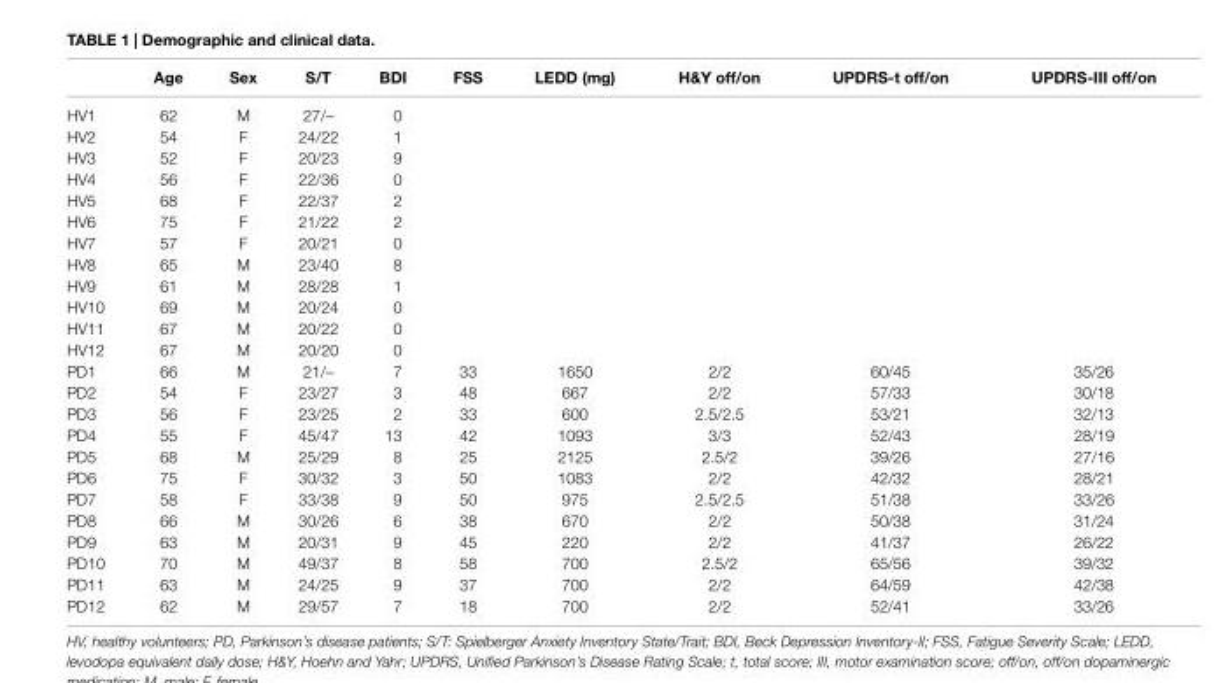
<table><thead><tr><td></td><td>age</td><td>sex</td><td>s/T</td><td>BDi</td><td>Fss</td><td>leDD (mg)</td><td>h&amp;Y off/on</td><td>UPDrs-t off/on</td><td>UPDrs-iii off/on</td></tr></thead><tbody><tr><td>HV1</td><td>62</td><td>M</td><td>27/–</td><td>0</td><td></td><td></td><td></td><td></td><td></td></tr><tr><td>HV2</td><td>54</td><td>F</td><td>24/22</td><td>1</td><td></td><td></td><td></td><td></td><td></td></tr><tr><td>HV3</td><td>52</td><td>F</td><td>20/23</td><td>9</td><td></td><td></td><td></td><td></td><td></td></tr><tr><td>HV4</td><td>56</td><td>F</td><td>22/36</td><td>0</td><td></td><td></td><td></td><td></td><td></td></tr><tr><td>HV5</td><td>68</td><td>F</td><td>22/37</td><td>2</td><td></td><td></td><td></td><td></td><td></td></tr><tr><td>HV6</td><td>75</td><td>F</td><td>21/22</td><td>2</td><td></td><td></td><td></td><td></td><td></td></tr><tr><td>HV7</td><td>57</td><td>F</td><td>20/21</td><td>0</td><td></td><td></td><td></td><td></td><td></td></tr><tr><td>HV8</td><td>65</td><td>M</td><td>23/40</td><td>8</td><td></td><td></td><td></td><td></td><td></td></tr><tr><td>HV9</td><td>61</td><td>M</td><td>28/28</td><td>1</td><td></td><td></td><td></td><td></td><td></td></tr><tr><td>HV10</td><td>69</td><td>M</td><td>20/24</td><td>0</td><td></td><td></td><td></td><td></td><td></td></tr><tr><td>HV11</td><td>67</td><td>M</td><td>20/22</td><td>0</td><td></td><td></td><td></td><td></td><td></td></tr><tr><td>HV12</td><td>67</td><td>M</td><td>20/20</td><td>0</td><td></td><td></td><td></td><td></td><td></td></tr><tr><td>PD1</td><td>66</td><td>M</td><td>21/–</td><td>7</td><td>33</td><td>1650</td><td>2/2</td><td>60/45</td><td>35/26</td></tr><tr><td>PD2</td><td>54</td><td>F</td><td>23/27</td><td>3</td><td>48</td><td>667</td><td>2/2</td><td>57/33</td><td>30/18</td></tr><tr><td>PD3</td><td>56</td><td>F</td><td>23/25</td><td>2</td><td>33</td><td>600</td><td>2.5/2.5</td><td>53/21</td><td>32/13</td></tr><tr><td>PD4</td><td>55</td><td>F</td><td>45/47</td><td>13</td><td>42</td><td>1093</td><td>3/3</td><td>52/43</td><td>28/19</td></tr><tr><td>PD5</td><td>68</td><td>M</td><td>25/29</td><td>8</td><td>25</td><td>2125</td><td>2.5/2</td><td>39/26</td><td>27/16</td></tr><tr><td>PD6</td><td>75</td><td>F</td><td>30/32</td><td>3</td><td>50</td><td>1083</td><td>2/2</td><td>42/32</td><td>28/21</td></tr><tr><td>PD7</td><td>58</td><td>F</td><td>33/38</td><td>9</td><td>50</td><td>975</td><td>2.5/2.5</td><td>51/38</td><td>33/26</td></tr><tr><td>PD8</td><td>66</td><td>M</td><td>30/26</td><td>6</td><td>38</td><td>670</td><td>2/2</td><td>50/38</td><td>31/24</td></tr><tr><td>PD9</td><td>63</td><td>M</td><td>20/31</td><td>9</td><td>45</td><td>220</td><td>2/2</td><td>41/37</td><td>26/22</td></tr><tr><td>PD10</td><td>70</td><td>M</td><td>49/37</td><td>8</td><td>58</td><td>700</td><td>2.5/2</td><td>65/56</td><td>39/32</td></tr><tr><td>PD11</td><td>63</td><td>M</td><td>24/25</td><td>9</td><td>37</td><td>700</td><td>2/2</td><td>64/59</td><td>42/38</td></tr><tr><td>PD12</td><td>62</td><td>M</td><td>29/57</td><td>7</td><td>18</td><td>700</td><td>2/2</td><td>52/41</td><td>33/26</td></tr></tbody></table>